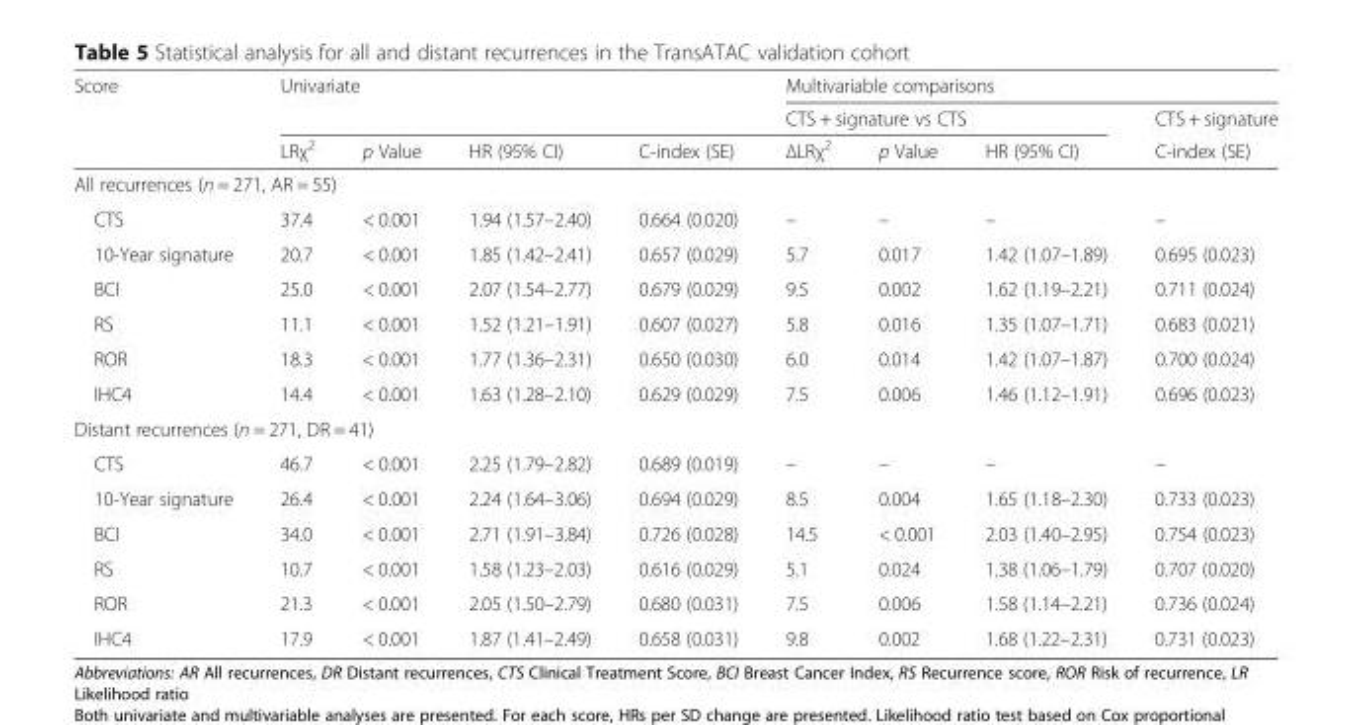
<table><thead><tr><td rowspan="3">Score</td><td rowspan="2" colspan="4">Univariate</td><td colspan="4">Multivariable comparisons</td></tr><tr><td colspan="3">CTS + signature vs CTS</td><td rowspan="2">CTS + signature C-index (SE)</td></tr><tr><td>LRχ<sup>2</sup></td><td>p Value</td><td>HR (95% CI)</td><td>C-index (SE)</td><td>ΔLRχ2</td><td>p Value</td><td>HR (95% CI)</td></tr></thead><tbody><tr><td colspan="9">All recurrences (n = 271, AR = 55)</td></tr><tr><td>CTS</td><td>37.4</td><td>&lt; 0.001</td><td>1.94 (1.57–2.40)</td><td>0.664 (0.020)</td><td>–</td><td>–</td><td>–</td><td>–</td></tr><tr><td>10-Year signature</td><td>20.7</td><td>&lt; 0.001</td><td>1.85 (1.42–2.41)</td><td>0.657 (0.029)</td><td>5.7</td><td>0.017</td><td>1.42 (1.07–1.89)</td><td>0.695 (0.023)</td></tr><tr><td>BCI</td><td>25.0</td><td>&lt; 0.001</td><td>2.07 (1.54–2.77)</td><td>0.679 (0.029)</td><td>9.5</td><td>0.002</td><td>1.62 (1.19–2.21)</td><td>0.711 (0.024)</td></tr><tr><td>RS</td><td>11.1</td><td>&lt; 0.001</td><td>1.52 (1.21–1.91)</td><td>0.607 (0.027)</td><td>5.8</td><td>0.016</td><td>1.35 (1.07–1.71)</td><td>0.683 (0.021)</td></tr><tr><td>ROR</td><td>18.3</td><td>&lt; 0.001</td><td>1.77 (1.36–2.31)</td><td>0.650 (0.030)</td><td>6.0</td><td>0.014</td><td>1.42 (1.07–1.87)</td><td>0.700 (0.024)</td></tr><tr><td>IHC4</td><td>14.4</td><td>&lt; 0.001</td><td>1.63 (1.28–2.10)</td><td>0.629 (0.029)</td><td>7.5</td><td>0.006</td><td>1.46 (1.12–1.91)</td><td>0.696 (0.023)</td></tr><tr><td colspan="9">Distant recurrences (n = 271, DR = 41)</td></tr><tr><td>CTS</td><td>46.7</td><td>&lt; 0.001</td><td>2.25 (1.79–2.82)</td><td>0.689 (0.019)</td><td>–</td><td>–</td><td>–</td><td>–</td></tr><tr><td>10-Year signature</td><td>26.4</td><td>&lt; 0.001</td><td>2.24 (1.64–3.06)</td><td>0.694 (0.029)</td><td>8.5</td><td>0.004</td><td>1.65 (1.18–2.30)</td><td>0.733 (0.023)</td></tr><tr><td>BCI</td><td>34.0</td><td>&lt; 0.001</td><td>2.71 (1.91–3.84)</td><td>0.726 (0.028)</td><td>14.5</td><td>&lt; 0.001</td><td>2.03 (1.40–2.95)</td><td>0.754 (0.023)</td></tr><tr><td>RS</td><td>10.7</td><td>&lt; 0.001</td><td>1.58 (1.23–2.03)</td><td>0.616 (0.029)</td><td>5.1</td><td>0.024</td><td>1.38 (1.06–1.79)</td><td>0.707 (0.020)</td></tr><tr><td>ROR</td><td>21.3</td><td>&lt; 0.001</td><td>2.05 (1.50–2.79)</td><td>0.680 (0.031)</td><td>7.5</td><td>0.006</td><td>1.58 (1.14–2.21)</td><td>0.736 (0.024)</td></tr><tr><td>IHC4</td><td>17.9</td><td>&lt; 0.001</td><td>1.87 (1.41–2.49)</td><td>0.658 (0.031)</td><td>9.8</td><td>0.002</td><td>1.68 (1.22–2.31)</td><td>0.731 (0.023)</td></tr></tbody></table>